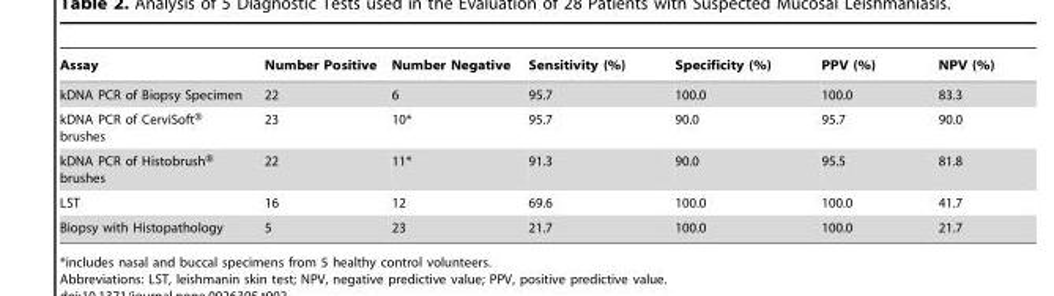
<table><thead><tr><td>Assay</td><td>Number Positive</td><td>Number Negative</td><td>Sensitivity (%)</td><td>Specificity (%)</td><td>PPV (%)</td><td>NPV (%)</td></tr></thead><tbody><tr><td>kDNA PCR of Biopsy Specimen</td><td>22</td><td>6</td><td>95.7</td><td>100.0</td><td>100.0</td><td>83.3</td></tr><tr><td>kDNA PCR of CerviSoft® brushes</td><td>23</td><td>10*</td><td>95.7</td><td>90.0</td><td>95.7</td><td>90.0</td></tr><tr><td>kDNA PCR of Histobrush® brushes</td><td>22</td><td>11*</td><td>91.3</td><td>90.0</td><td>95.5</td><td>81.8</td></tr><tr><td>LST</td><td>16</td><td>12</td><td>69.6</td><td>100.0</td><td>100.0</td><td>41.7</td></tr><tr><td>Biopsy with Histopathology</td><td>5</td><td>23</td><td>21.7</td><td>100.0</td><td>100.0</td><td>21.7</td></tr></tbody></table>